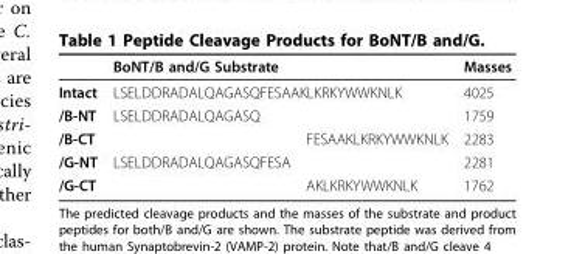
<table><thead><tr><td rowspan="3">Intact /B-NT</td><td rowspan="2" colspan="2">BoNT/B and/G Substrate LSELDDRADALQAGASQFESAAKLKRKYWWKNLK</td><td rowspan="3">Masses 4025 1759</td></tr><tr></tr><tr><td>LSELDDRADALQAGASQ</td><td></td></tr></thead><tbody><tr><td>/B-CT</td><td></td><td>FESAAKLKRKYWWKNLK</td><td>2283</td></tr><tr><td>/G-NT</td><td>LSELDDRADALQAGASQFESA</td><td></td><td>2281</td></tr><tr><td>/G-CT</td><td></td><td>AKLKRKYWWKNLK</td><td>1762</td></tr></tbody></table>